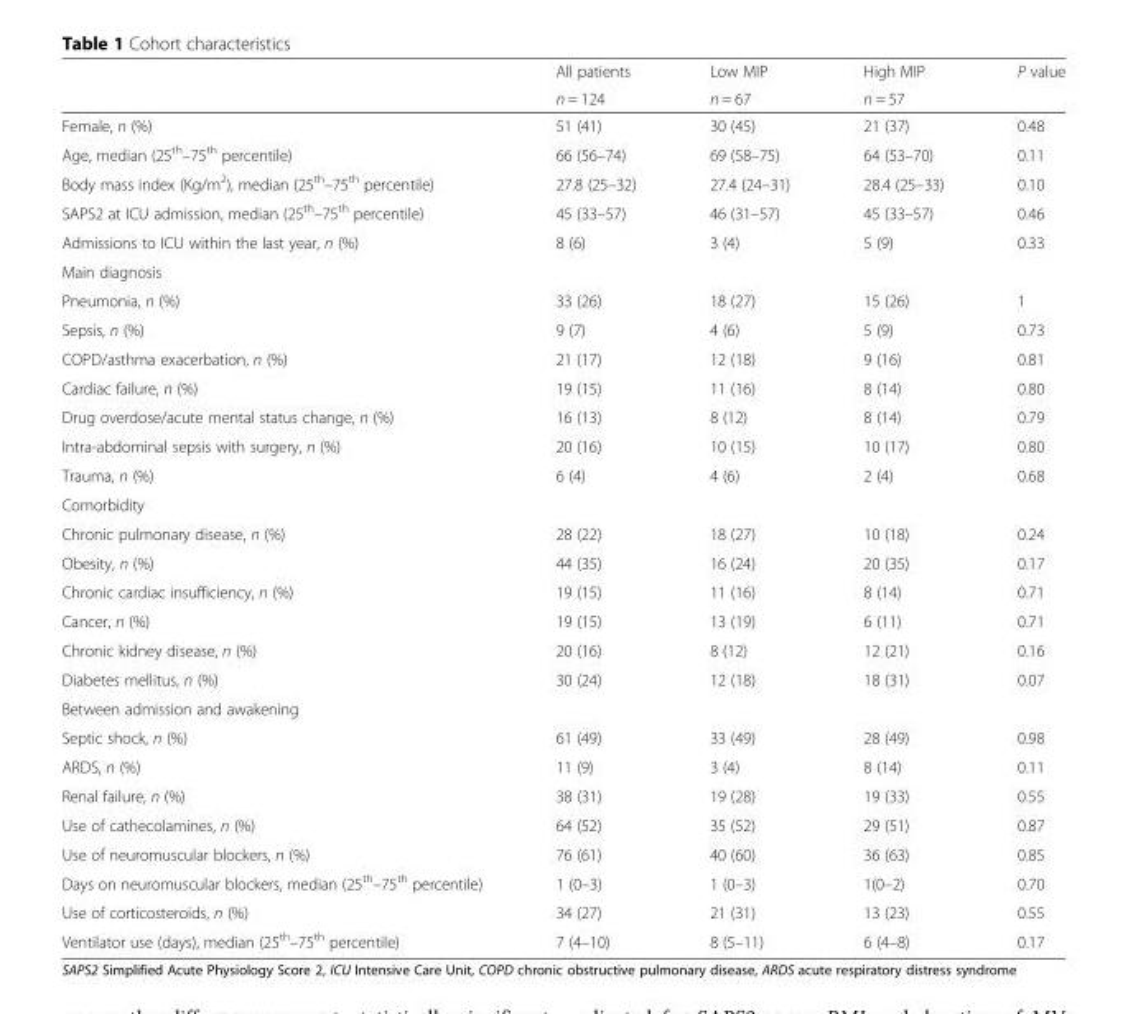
<table><thead><tr><td rowspan="2"></td><td rowspan="2">All patients n = 124</td><td rowspan="2">Low MIP n = 67</td><td rowspan="2">High MIP n = 57</td><td rowspan="2">P value</td></tr><tr></tr></thead><tbody><tr><td>Female, n (%)</td><td>51 (41)</td><td>30 (45)</td><td>21 (37)</td><td>0.48</td></tr><tr><td>Age, median (25<sup>th</sup>–75<sup>th</sup> percentile)</td><td>66 (56–74)</td><td>69 (58–75)</td><td>64 (53–70)</td><td>0.11</td></tr><tr><td>Body mass index (Kg/m<sup>2</sup>), median (25<sup>th</sup>–75<sup>th</sup> percentile)</td><td>27.8 (25–32)</td><td>27.4 (24–31)</td><td>28.4 (25–33)</td><td>0.10</td></tr><tr><td>SAPS2 at ICU admission, median (25<sup>th</sup>–75<sup>th</sup> percentile)</td><td>45 (33–57)</td><td>46 (31–57)</td><td>45 (33–57)</td><td>0.46</td></tr><tr><td>Admissions to ICU within the last year, n (%)</td><td>8 (6)</td><td>3 (4)</td><td>5 (9)</td><td>0.33</td></tr><tr><td colspan="5">Main diagnosis</td></tr><tr><td>Pneumonia, n (%)</td><td>33 (26)</td><td>18 (27)</td><td>15 (26)</td><td>1</td></tr><tr><td>Sepsis, n (%)</td><td>9 (7)</td><td>4 (6)</td><td>5 (9)</td><td>0.73</td></tr><tr><td>COPD/asthma exacerbation, n (%)</td><td>21 (17)</td><td>12 (18)</td><td>9 (16)</td><td>0.81</td></tr><tr><td>Cardiac failure, n (%)</td><td>19 (15)</td><td>11 (16)</td><td>8 (14)</td><td>0.80</td></tr><tr><td>Drug overdose/acute mental status change, n (%)</td><td>16 (13)</td><td>8 (12)</td><td>8 (14)</td><td>0.79</td></tr><tr><td>Intra-abdominal sepsis with surgery, n (%)</td><td>20 (16)</td><td>10 (15)</td><td>10 (17)</td><td>0.80</td></tr><tr><td>Trauma, n (%)</td><td>6 (4)</td><td>4 (6)</td><td>2 (4)</td><td>0.68</td></tr><tr><td colspan="5">Comorbidity</td></tr><tr><td>Chronic pulmonary disease, n (%)</td><td>28 (22)</td><td>18 (27)</td><td>10 (18)</td><td>0.24</td></tr><tr><td>Obesity, n (%)</td><td>44 (35)</td><td>16 (24)</td><td>20 (35)</td><td>0.17</td></tr><tr><td>Chronic cardiac insufficiency, n (%)</td><td>19 (15)</td><td>11 (16)</td><td>8 (14)</td><td>0.71</td></tr><tr><td>Cancer, n (%)</td><td>19 (15)</td><td>13 (19)</td><td>6 (11)</td><td>0.71</td></tr><tr><td>Chronic kidney disease, n (%)</td><td>20 (16)</td><td>8 (12)</td><td>12 (21)</td><td>0.16</td></tr><tr><td>Diabetes mellitus, n (%)</td><td>30 (24)</td><td>12 (18)</td><td>18 (31)</td><td>0.07</td></tr><tr><td colspan="5">Between admission and awakening</td></tr><tr><td>Septic shock, n (%)</td><td>61 (49)</td><td>33 (49)</td><td>28 (49)</td><td>0.98</td></tr><tr><td>ARDS, n (%)</td><td>11 (9)</td><td>3 (4)</td><td>8 (14)</td><td>0.11</td></tr><tr><td>Renal failure, n (%)</td><td>38 (31)</td><td>19 (28)</td><td>19 (33)</td><td>0.55</td></tr><tr><td>Use of cathecolamines, n (%)</td><td>64 (52)</td><td>35 (52)</td><td>29 (51)</td><td>0.87</td></tr><tr><td>Use of neuromuscular blockers, n (%)</td><td>76 (61)</td><td>40 (60)</td><td>36 (63)</td><td>0.85</td></tr><tr><td>Days on neuromuscular blockers, median (25<sup>th</sup>–75<sup>th</sup> percentile)</td><td>1 (0–3)</td><td>1 (0–3)</td><td>1(0–2)</td><td>0.70</td></tr><tr><td>Use of corticosteroids, n (%)</td><td>34 (27)</td><td>21 (31)</td><td>13 (23)</td><td>0.55</td></tr><tr><td>Ventilator use (days), median (25<sup>th</sup>–75<sup>th</sup> percentile)</td><td>7 (4–10)</td><td>8 (5–11)</td><td>6 (4–8)</td><td>0.17</td></tr></tbody></table>